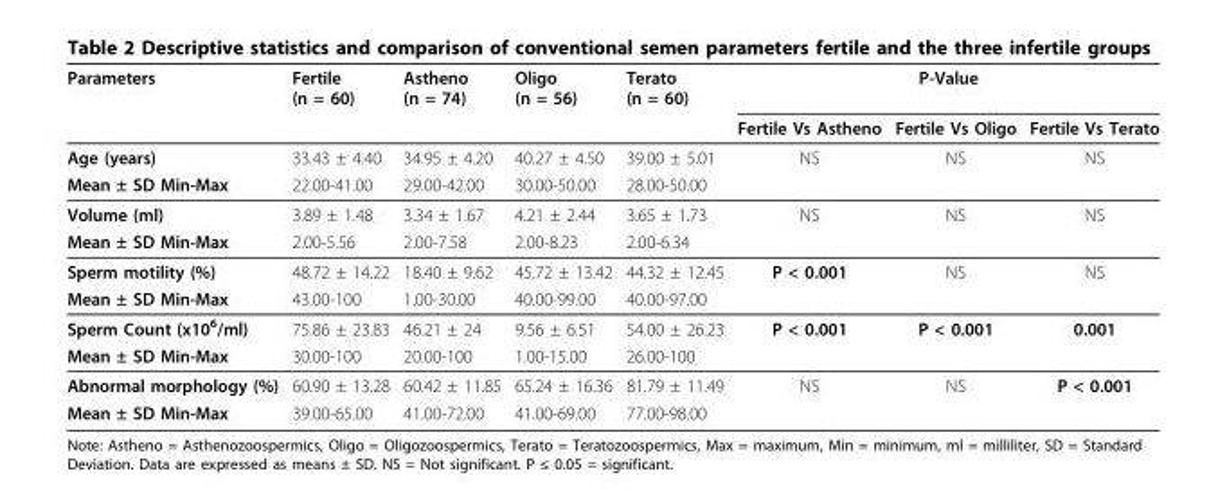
<table><thead><tr><td rowspan="2">Parameters</td><td rowspan="2">Fertile (n = 60)</td><td rowspan="2">Astheno (n = 74)</td><td rowspan="2">Oligo (n = 56)</td><td rowspan="2">Terato (n = 60)</td><td colspan="3">P-Value</td></tr><tr><td>Fertile Vs Astheno</td><td>Fertile Vs Oligo</td><td>Fertile Vs Terato</td></tr></thead><tbody><tr><td>Age (years)</td><td>33.43 ± 4.40</td><td>34.95 ± 4.20</td><td>40.27 ± 4.50</td><td>39.00 ± 5.01</td><td>NS</td><td>NS</td><td>NS</td></tr><tr><td>Mean ± SD Min-Max</td><td>22.00-41.00</td><td>29.00-42.00</td><td>30.00-50.00</td><td>28.00-50.00</td><td></td><td></td><td></td></tr><tr><td>Volume (ml)</td><td>3.89 ± 1.48</td><td>3.34 ± 1.67</td><td>4.21 ± 2.44</td><td>3.65 ± 1.73</td><td>NS</td><td>NS</td><td>NS</td></tr><tr><td>Mean ± SD Min-Max</td><td>2.00-5.56</td><td>2.00-7.58</td><td>2.00-8.23</td><td>2.00-6.34</td><td></td><td></td><td></td></tr><tr><td>Sperm motility (%)</td><td>48.72 ± 14.22</td><td>18.40 ± 9.62</td><td>45.72 ± 13.42</td><td>44.32 ± 12.45</td><td>P &lt; 0.001</td><td>NS</td><td>NS</td></tr><tr><td>Mean ± SD Min-Max</td><td>43.00-100</td><td>1.00-30.00</td><td>40.00-99.00</td><td>40.00-97.00</td><td></td><td></td><td></td></tr><tr><td>Sperm Count (x10<sup>6</sup>/ml)</td><td>75.86 ± 23.83</td><td>46.21 ± 24</td><td>9.56 ± 6.51</td><td>54.00 ± 26.23</td><td>P &lt; 0.001</td><td>P &lt; 0.001</td><td>0.001</td></tr><tr><td>Mean ± SD Min-Max</td><td>30.00-100</td><td>20.00-100</td><td>1.00-15.00</td><td>26.00-100</td><td></td><td></td><td></td></tr><tr><td>Abnormal morphology (%)</td><td>60.90 ± 13.28</td><td>60.42 ± 11.85</td><td>65.24 ± 16.36</td><td>81.79 ± 11.49</td><td>NS</td><td>NS</td><td>P &lt; 0.001</td></tr><tr><td>Mean ± SD Min-Max</td><td>39.00-65.00</td><td>41.00-72.00</td><td>41.00-69.00</td><td>77.00-98.00</td><td></td><td></td><td></td></tr></tbody></table>